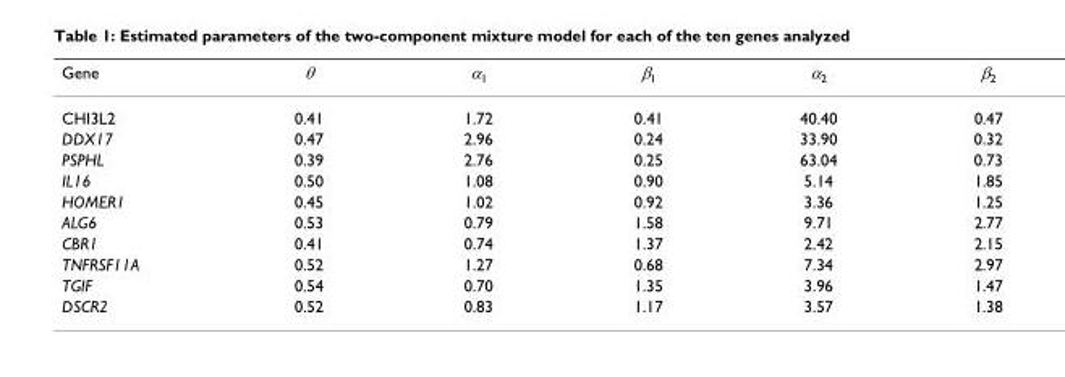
<table><thead><tr><td>Gene</td><td>θ</td><td>α<sub>1</sub></td><td>β<sub>1</sub></td><td>α<sub>2</sub></td><td>β<sub>2</sub></td></tr></thead><tbody><tr><td>CHI3L2</td><td>0.41</td><td>1.72</td><td>0.41</td><td>40.40</td><td>0.47</td></tr><tr><td>DDX17</td><td>0.47</td><td>2.96</td><td>0.24</td><td>33.90</td><td>0.32</td></tr><tr><td>PSPHL</td><td>0.39</td><td>2.76</td><td>0.25</td><td>63.04</td><td>0.73</td></tr><tr><td>IL16</td><td>0.50</td><td>1.08</td><td>0.90</td><td>5.14</td><td>1.85</td></tr><tr><td>HOMER1</td><td>0.45</td><td>1.02</td><td>0.92</td><td>3.36</td><td>1.25</td></tr><tr><td>ALG6</td><td>0.53</td><td>0.79</td><td>1.58</td><td>9.71</td><td>2.77</td></tr><tr><td>CBR1</td><td>0.41</td><td>0.74</td><td>1.37</td><td>2.42</td><td>2.15</td></tr><tr><td>TNFRSF11A</td><td>0.52</td><td>1.27</td><td>0.68</td><td>7.34</td><td>2.97</td></tr><tr><td>TGIF</td><td>0.54</td><td>0.70</td><td>1.35</td><td>3.96</td><td>1.47</td></tr><tr><td>DSCR2</td><td>0.52</td><td>0.83</td><td>1.17</td><td>3.57</td><td>1.38</td></tr></tbody></table>